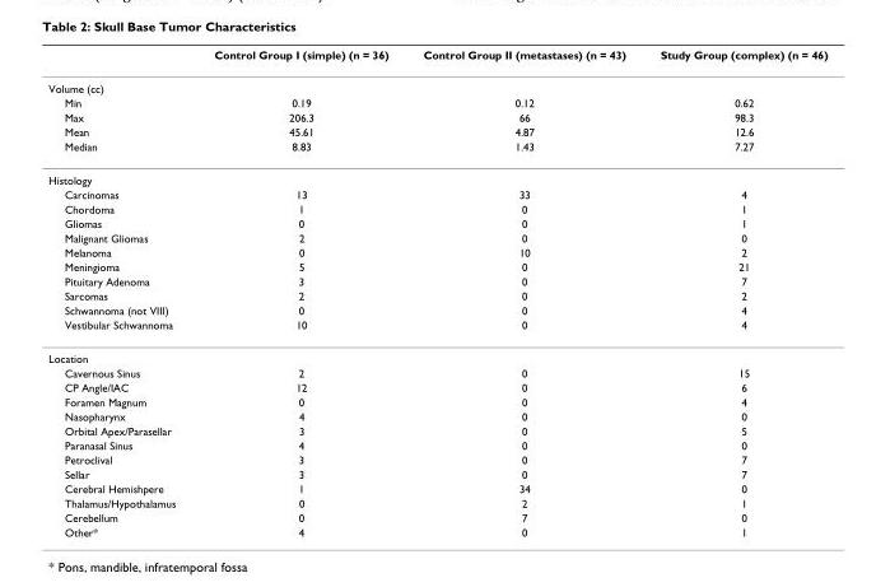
<table><thead><tr><td></td><td>Control Group I (simple) (n = 36)</td><td>Control Group II (metastases) (n = 43)</td><td>Study Group (complex) (n = 46)</td></tr></thead><tbody><tr><td colspan="4">Volume (cc)</td></tr><tr><td>Min</td><td>0.19</td><td>0.12</td><td>0.62</td></tr><tr><td>Max</td><td>206.3</td><td>66</td><td>98.3</td></tr><tr><td>Mean</td><td>45.61</td><td>4.87</td><td>12.6</td></tr><tr><td>Median</td><td>8.83</td><td>1.43</td><td>7.27</td></tr><tr><td colspan="4">Histology</td></tr><tr><td>Carcinomas</td><td>13</td><td>33</td><td>4</td></tr><tr><td>Chordoma</td><td>1</td><td>0</td><td>1</td></tr><tr><td>Gliomas</td><td>0</td><td>0</td><td>1</td></tr><tr><td>Malignant Gliomas</td><td>2</td><td>0</td><td>0</td></tr><tr><td>Melanoma</td><td>0</td><td>10</td><td>2</td></tr><tr><td>Meningioma</td><td>5</td><td>0</td><td>21</td></tr><tr><td>Pituitary Adenoma</td><td>3</td><td>0</td><td>7</td></tr><tr><td>Sarcomas</td><td>2</td><td>0</td><td>2</td></tr><tr><td>Schwannoma (not VIII)</td><td>0</td><td>0</td><td>4</td></tr><tr><td>Vestibular Schwannoma</td><td>10</td><td>0</td><td>4</td></tr><tr><td colspan="4">Location</td></tr><tr><td>Cavernous Sinus</td><td>2</td><td>0</td><td>15</td></tr><tr><td>CP Angle/IAC</td><td>12</td><td>0</td><td>6</td></tr><tr><td>Foramen Magnum</td><td>0</td><td>0</td><td>4</td></tr><tr><td>Nasopharynx</td><td>4</td><td>0</td><td>0</td></tr><tr><td>Orbital Apex/Parasellar</td><td>3</td><td>0</td><td>5</td></tr><tr><td>Paranasal Sinus</td><td>4</td><td>0</td><td>0</td></tr><tr><td>Petroclival</td><td>3</td><td>0</td><td>7</td></tr><tr><td>Sellar</td><td>3</td><td>0</td><td>7</td></tr><tr><td>Cerebral Hemishpere</td><td>1</td><td>34</td><td>0</td></tr><tr><td>Thalamus/Hypothalamus</td><td>0</td><td>2</td><td>1</td></tr><tr><td>Cerebellum</td><td>0</td><td>7</td><td>0</td></tr><tr><td>Other*</td><td>4</td><td>0</td><td>1</td></tr></tbody></table>